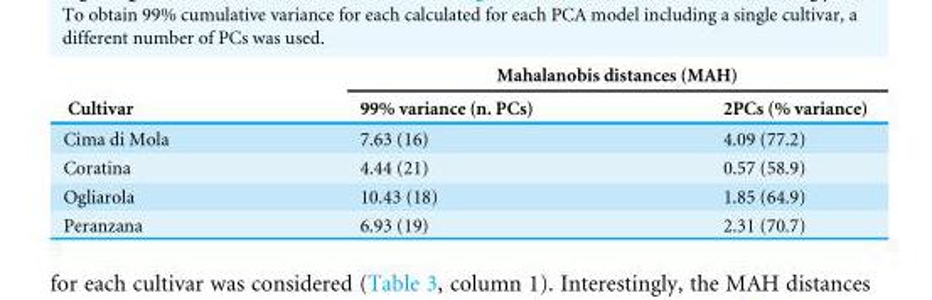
<table><thead><tr><td rowspan="2">Cultivar</td><td colspan="2">Mahalanobis distances (MAH)</td></tr><tr><td>99% variance (n. PCs)</td><td>2PCs (% variance)</td></tr></thead><tbody><tr><td>Cima di Mola</td><td>7.63 (16)</td><td>4.09 (77.2)</td></tr><tr><td>Coratina</td><td>4.44 (21)</td><td>0.57 (58.9)</td></tr><tr><td>Ogliarola</td><td>10.43 (18)</td><td>1.85 (64.9)</td></tr><tr><td>Peranzana</td><td>6.93 (19)</td><td>2.31 (70.7)</td></tr></tbody></table>